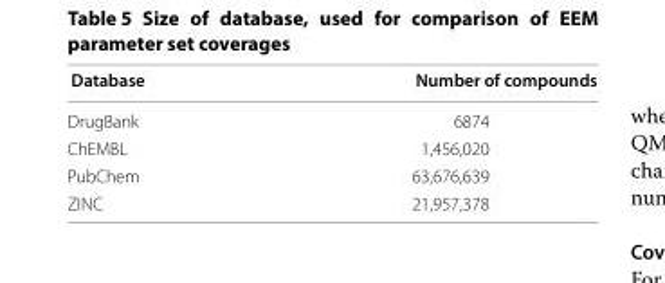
<table><thead><tr><td>Database</td><td>Number of compounds</td></tr></thead><tbody><tr><td>DrugBank</td><td>6874</td></tr><tr><td>ChEMBL</td><td>1,456,020</td></tr><tr><td>PubChem</td><td>63,676,639</td></tr><tr><td>ZINC</td><td>21,957,378</td></tr></tbody></table>